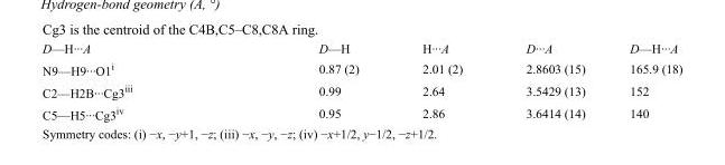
<table><tbody><tr><td>D—H···A</td><td>D—H</td><td>H···A</td><td>D···A</td><td>D—H···A</td></tr><tr><td>N9—H9···O1<sup>i</sup></td><td>0.87 (2)</td><td>2.01 (2)</td><td>2.8603 (15)</td><td>165.9 (18)</td></tr><tr><td>C2—H2B···Cg3<sup>iii</sup></td><td>0.99</td><td>2.64</td><td>3.5429 (13)</td><td>152</td></tr><tr><td>C5—H5···Cg3<sup>iv</sup></td><td>0.95</td><td>2.86</td><td>3.6414 (14)</td><td>140</td></tr></tbody></table>